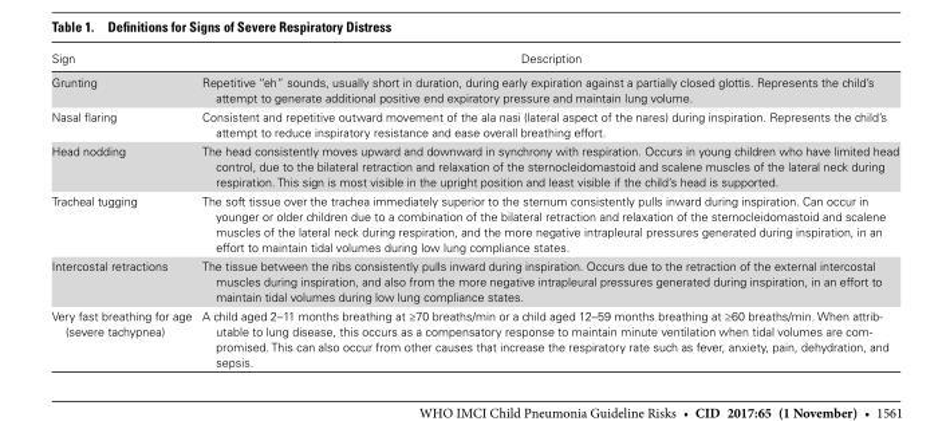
<table><thead><tr><td>Sign</td><td>Description</td></tr></thead><tbody><tr><td>Grunting</td><td>Repetitive “eh” sounds, usually short in duration, during early expiration against a partially closed glottis. Represents the child’s attempt to generate additional positive end expiratory pressure and maintain lung volume.</td></tr><tr><td>Nasal flaring</td><td>Consistent and repetitive outward movement of the ala nasi (lateral aspect of the nares) during inspiration. Represents the child’s attempt to reduce inspiratory resistance and ease overall breathing effort.</td></tr><tr><td>Head nodding</td><td>The head consistently moves upward and downward in synchrony with respiration. Occurs in young children who have limited head control, due to the bilateral retraction and relaxation of the sternocleidomastoid and scalene muscles of the lateral neck during respiration. This sign is most visible in the upright position and least visible if the child’s head is supported.</td></tr><tr><td>Tracheal tugging</td><td>The soft tissue over the trachea immediately superior to the sternum consistently pulls inward during inspiration. Can occur in younger or older children due to a combination of the bilateral retraction and relaxation of the sternocleidomastoid and scalene muscles of the lateral neck during respiration, and the more negative intrapleural pressures generated during inspiration, in an effort to maintain tidal volumes during low lung compliance states.</td></tr><tr><td>Intercostal retractions</td><td>The tissue between the ribs consistently pulls inward during inspiration. Occurs due to the retraction of the external intercostal muscles during inspiration, and also from the more negative intrapleural pressures generated during inspiration, in an effort to maintain tidal volumes during low lung compliance states.</td></tr><tr><td>Very fast breathing for age (severe tachypnea)</td><td>A child aged 2–11 months breathing at ≥70 breaths/min or a child aged 12–59 months breathing at ≥60 breaths/min. When attrib- utable to lung disease, this occurs as a compensatory response to maintain minute ventilation when tidal volumes are com- promised. This can also occur from other causes that increase the respiratory rate such as fever, anxiety, pain, dehydration, and sepsis.</td></tr></tbody></table>